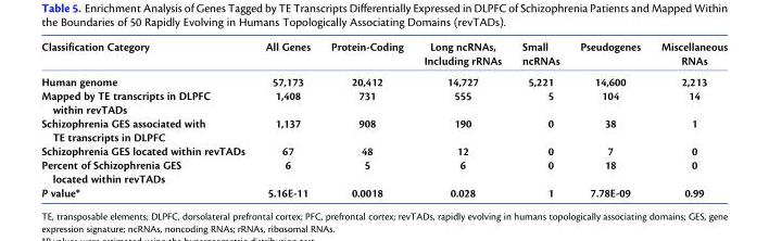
<table><thead><tr><td>Classification Category</td><td>All Genes</td><td>Protein-Coding</td><td>Long ncRNAs, Including rRNAs</td><td>Small ncRNAs</td><td>Pseudogenes</td><td>Miscellaneous RNAs</td></tr></thead><tbody><tr><td>Human genome</td><td>57,173</td><td>20,412</td><td>14,727</td><td>5,221</td><td>14,600</td><td>2,213</td></tr><tr><td>Mapped by TE transcripts in DLPFC within revTADs</td><td>1,408</td><td>731</td><td>555</td><td>5</td><td>104</td><td>14</td></tr><tr><td>Schizophrenia GES associated with TE transcripts in DLPFC</td><td>1,137</td><td>908</td><td>190</td><td>0</td><td>38</td><td>1</td></tr><tr><td>Schizophrenia GES located within revTADs</td><td>67</td><td>48</td><td>12</td><td>0</td><td>7</td><td>0</td></tr><tr><td>Percent of Schizophrenia GES located within revTADs</td><td>6</td><td>5</td><td>6</td><td>0</td><td>18</td><td>0</td></tr><tr><td>P value*</td><td>5.16E-11</td><td>0.0018</td><td>0.028</td><td>1</td><td>7.78E-09</td><td>0.99</td></tr></tbody></table>